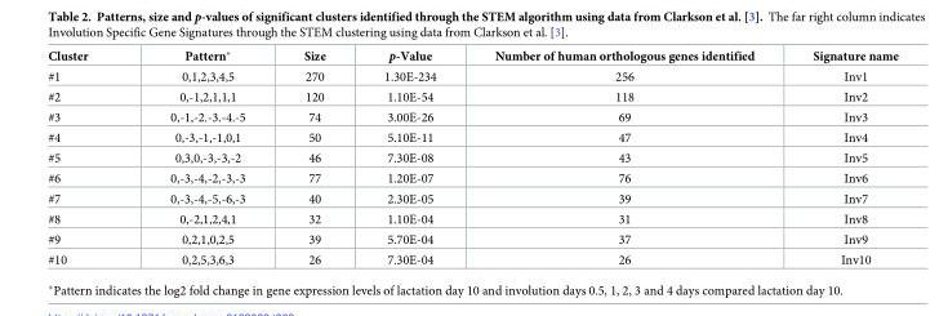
<table><thead><tr><td>Cluster</td><td>Pattern*</td><td>Size</td><td>p-Value</td><td>Number of human orthologous genes identified</td><td>Signature name</td></tr></thead><tbody><tr><td>#1</td><td>0,1,2,3,4,5</td><td>270</td><td>1.30E-234</td><td>256</td><td>Inv1</td></tr><tr><td>#2</td><td>0,-1,2,1,1,1</td><td>120</td><td>1.10E-54</td><td>118</td><td>Inv2</td></tr><tr><td>#3</td><td>0,-1,-2.-3.-4.-5</td><td>74</td><td>3.00E-26</td><td>69</td><td>Inv3</td></tr><tr><td>#4</td><td>0,-3,-1,-1,0,1</td><td>50</td><td>5.10E-11</td><td>47</td><td>Inv4</td></tr><tr><td>#5</td><td>0,3,0,-3,-3,-2</td><td>46</td><td>7.30E-08</td><td>43</td><td>Inv5</td></tr><tr><td>#6</td><td>0,-3,-4,-2,-3,-3</td><td>77</td><td>1.20E-07</td><td>76</td><td>Inv6</td></tr><tr><td>#7</td><td>0,-3,-4,-5,-6,-3</td><td>40</td><td>2.30E-05</td><td>39</td><td>Inv7</td></tr><tr><td>#8</td><td>0,-2,1,2,4,1</td><td>32</td><td>1.10E-04</td><td>31</td><td>Inv8</td></tr><tr><td>#9</td><td>0,2,1,0,2,5</td><td>39</td><td>5.70E-04</td><td>37</td><td>Inv9</td></tr><tr><td>#10</td><td>0,2,5,3,6,3</td><td>26</td><td>7.30E-04</td><td>26</td><td>Inv10</td></tr></tbody></table>